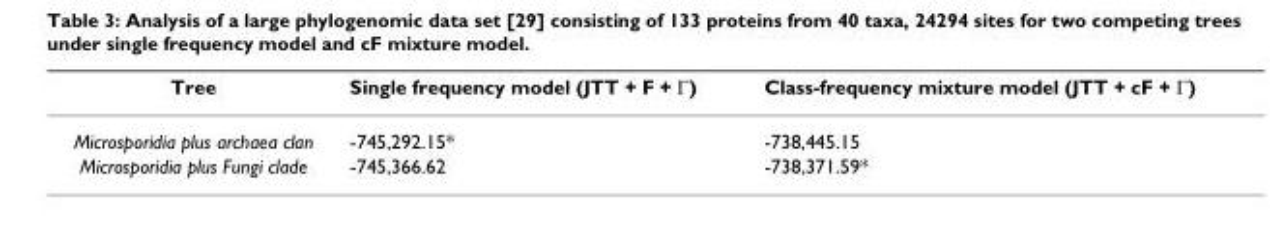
<table><thead><tr><td>Tree</td><td>Single frequency model (JTT + F + Γ)</td><td>Class-frequency mixture model (JTT + cF + Γ)</td></tr></thead><tbody><tr><td>Microsporidia plus archaea clan</td><td>-745,292.15*</td><td>-738,445.15</td></tr><tr><td>Microsporidia plus Fungi clade</td><td>-745,366.62</td><td>-738,371.59*</td></tr></tbody></table>